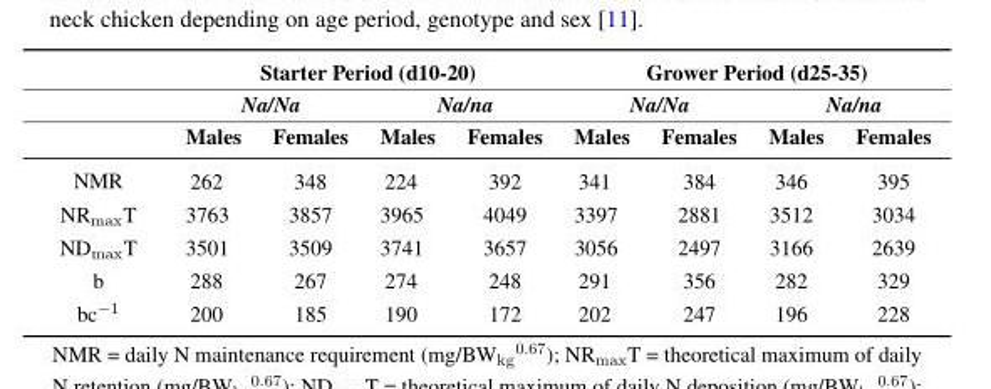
<table><thead><tr><td rowspan="3"></td><td colspan="4">Starter Period (d10-20)</td><td colspan="4">Grower Period (d25-35)</td></tr><tr><td colspan="2">Na/Na</td><td colspan="2">Na/na</td><td colspan="2">Na/Na</td><td colspan="2">Na/na</td></tr><tr><td>Males</td><td>Females</td><td>Males</td><td>Females</td><td>Males</td><td>Females</td><td>Males</td><td>Females</td></tr></thead><tbody><tr><td>NMR</td><td>262</td><td>348</td><td>224</td><td>392</td><td>341</td><td>384</td><td>346</td><td>395</td></tr><tr><td>NR<sub>max</sub>T</td><td>3763</td><td>3857</td><td>3965</td><td>4049</td><td>3397</td><td>2881</td><td>3512</td><td>3034</td></tr><tr><td>ND<sub>max</sub>T</td><td>3501</td><td>3509</td><td>3741</td><td>3657</td><td>3056</td><td>2497</td><td>3166</td><td>2639</td></tr><tr><td>b</td><td>288</td><td>267</td><td>274</td><td>248</td><td>291</td><td>356</td><td>282</td><td>329</td></tr><tr><td>bc<sup>−1</sup></td><td>200</td><td>185</td><td>190</td><td>172</td><td>202</td><td>247</td><td>196</td><td>228</td></tr></tbody></table>